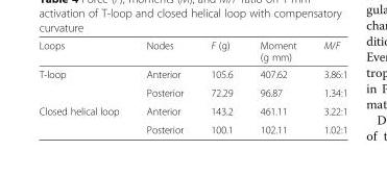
<table><thead><tr><td>Loops</td><td>Nodes</td><td>F (g)</td><td>Moment (g mm)</td><td>M/F</td></tr></thead><tbody><tr><td rowspan="2">T-loop</td><td>Anterior</td><td>105.6</td><td>407.62</td><td>3.86:1</td></tr><tr><td>Posterior</td><td>72.29</td><td>96.87</td><td>1.34:1</td></tr><tr><td rowspan="2">Closed helical loop</td><td>Anterior</td><td>143.2</td><td>461.11</td><td>3.22:1</td></tr><tr><td>Posterior</td><td>100.1</td><td>102.11</td><td>1.02:1</td></tr></tbody></table>